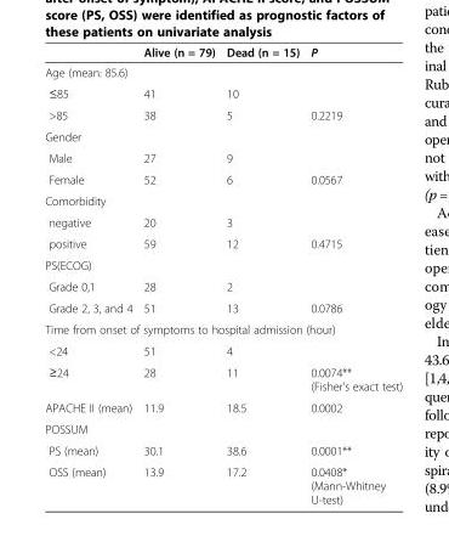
<table><thead><tr><td></td><td>Alive (n = 79)</td><td>Dead (n = 15)</td><td>P</td></tr></thead><tbody><tr><td colspan="4">Age (mean: 85.6)</td></tr><tr><td>≤85</td><td>41</td><td>10</td><td></td></tr><tr><td>&gt;85</td><td>38</td><td>5</td><td>0.2219</td></tr><tr><td colspan="4">Gender</td></tr><tr><td>Male</td><td>27</td><td>9</td><td></td></tr><tr><td>Female</td><td>52</td><td>6</td><td>0.0567</td></tr><tr><td colspan="4">Comorbidity</td></tr><tr><td>negative</td><td>20</td><td>3</td><td></td></tr><tr><td>positive</td><td>59</td><td>12</td><td>0.4715</td></tr><tr><td colspan="4">PS(ECOG)</td></tr><tr><td>Grade 0,1</td><td>28</td><td>2</td><td></td></tr><tr><td>Grade 2, 3, and 4</td><td>51</td><td>13</td><td>0.0786</td></tr><tr><td colspan="4">Time from onset of symptoms to hospital admission (hour)</td></tr><tr><td>&lt;24</td><td>51</td><td>4</td><td></td></tr><tr><td>≥24</td><td>28</td><td>11</td><td>0.0074** (Fisher’s exact test)</td></tr><tr><td>APACHE II (mean)</td><td>11.9</td><td>18.5</td><td>0.0002</td></tr><tr><td colspan="4">POSSUM</td></tr><tr><td>PS (mean)</td><td>30.1</td><td>38.6</td><td>0.0001**</td></tr><tr><td>OSS (mean)</td><td>13.9</td><td>17.2</td><td>0.0408* (Mann-Whitney U-test)</td></tr></tbody></table>